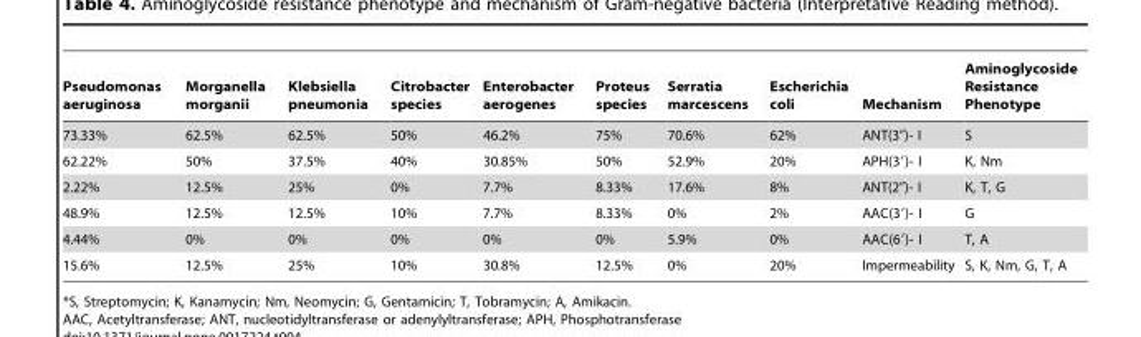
<table><thead><tr><td>Pseudomonas aeruginosa</td><td>Morganella morganii</td><td>Klebsiella pneumonia</td><td>Citrobacter species</td><td>Enterobacter aerogenes</td><td>Proteus species</td><td>Serratia marcescens</td><td>Escherichia coli</td><td>Mechanism</td><td>Aminoglycoside Resistance Phenotype</td></tr></thead><tbody><tr><td>73.33%</td><td>62.5%</td><td>62.5%</td><td>50%</td><td>46.2%</td><td>75%</td><td>70.6%</td><td>62%</td><td>ANT(3″)- I</td><td>S</td></tr><tr><td>62.22%</td><td>50%</td><td>37.5%</td><td>40%</td><td>30.85%</td><td>50%</td><td>52.9%</td><td>20%</td><td>APH(3′)- I</td><td>K, Nm</td></tr><tr><td>2.22%</td><td>12.5%</td><td>25%</td><td>0%</td><td>7.7%</td><td>8.33%</td><td>17.6%</td><td>8%</td><td>ANT(2″)- I</td><td>K, T, G</td></tr><tr><td>48.9%</td><td>12.5%</td><td>12.5%</td><td>10%</td><td>7.7%</td><td>8.33%</td><td>0%</td><td>2%</td><td>AAC(3′)- I</td><td>G</td></tr><tr><td>4.44%</td><td>0%</td><td>0%</td><td>0%</td><td>0%</td><td>0%</td><td>5.9%</td><td>0%</td><td>AAC(6′)- I</td><td>T, A</td></tr><tr><td>15.6%</td><td>12.5%</td><td>25%</td><td>10%</td><td>30.8%</td><td>12.5%</td><td>0%</td><td>20%</td><td>Impermeability</td><td>S, K, Nm, G, T, A</td></tr></tbody></table>